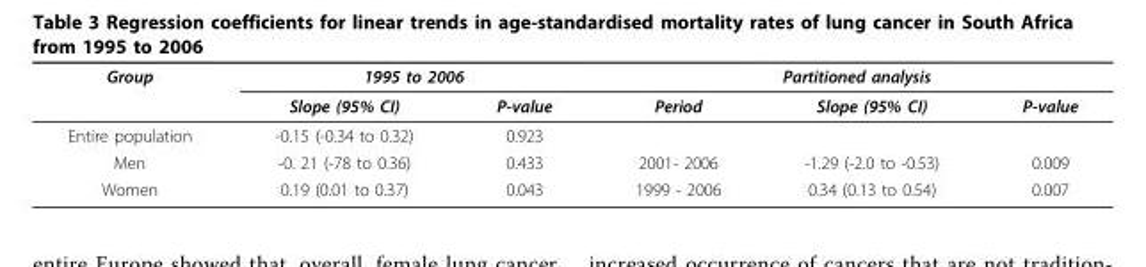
<table><thead><tr><td rowspan="2">Group</td><td colspan="2">1995 to 2006</td><td colspan="3">Partitioned analysis</td></tr><tr><td>Slope (95% CI)</td><td>P-value</td><td>Period</td><td>Slope (95% CI)</td><td>P-value</td></tr></thead><tbody><tr><td>Entire population</td><td>-0.15 (-0.34 to 0.32)</td><td>0.923</td><td></td><td></td><td></td></tr><tr><td>Men</td><td>-0. 21 (-78 to 0.36)</td><td>0.433</td><td>2001- 2006</td><td>-1.29 (-2.0 to -0.53)</td><td>0.009</td></tr><tr><td>Women</td><td>0.19 (0.01 to 0.37)</td><td>0.043</td><td>1999 - 2006</td><td>0.34 (0.13 to 0.54)</td><td>0.007</td></tr></tbody></table>